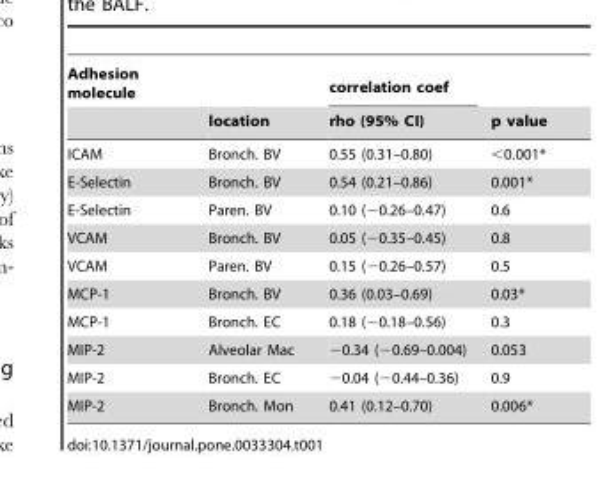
<table><thead><tr><td rowspan="2">Adhesion molecule</td><td rowspan="2">location</td><td rowspan="2">correlation coef rho (95% CI)</td><td rowspan="2">p value</td></tr><tr></tr></thead><tbody><tr><td>ICAM</td><td>Bronch. BV</td><td>0.55 (0.31–0.80)</td><td>&lt;0.001*</td></tr><tr><td>E-Selectin</td><td>Bronch. BV</td><td>0.54 (0.21–0.86)</td><td>0.001*</td></tr><tr><td>E-Selectin</td><td>Paren. BV</td><td>0.10 (−0.26–0.47)</td><td>0.6</td></tr><tr><td>VCAM</td><td>Bronch. BV</td><td>0.05 (−0.35–0.45)</td><td>0.8</td></tr><tr><td>VCAM</td><td>Paren. BV</td><td>0.15 (−0.26–0.57)</td><td>0.5</td></tr><tr><td>MCP-1</td><td>Bronch. BV</td><td>0.36 (0.03–0.69)</td><td>0.03*</td></tr><tr><td>MCP-1</td><td>Bronch. EC</td><td>0.18 (−0.18–0.56)</td><td>0.3</td></tr><tr><td>MIP-2</td><td>Alveolar Mac</td><td>−0.34 (−0.69–0.004)</td><td>0.053</td></tr><tr><td>MIP-2</td><td>Bronch. EC</td><td>−0.04 (−0.44–0.36)</td><td>0.9</td></tr><tr><td>MIP-2</td><td>Bronch. Mon</td><td>0.41 (0.12–0.70)</td><td>0.006*</td></tr></tbody></table>